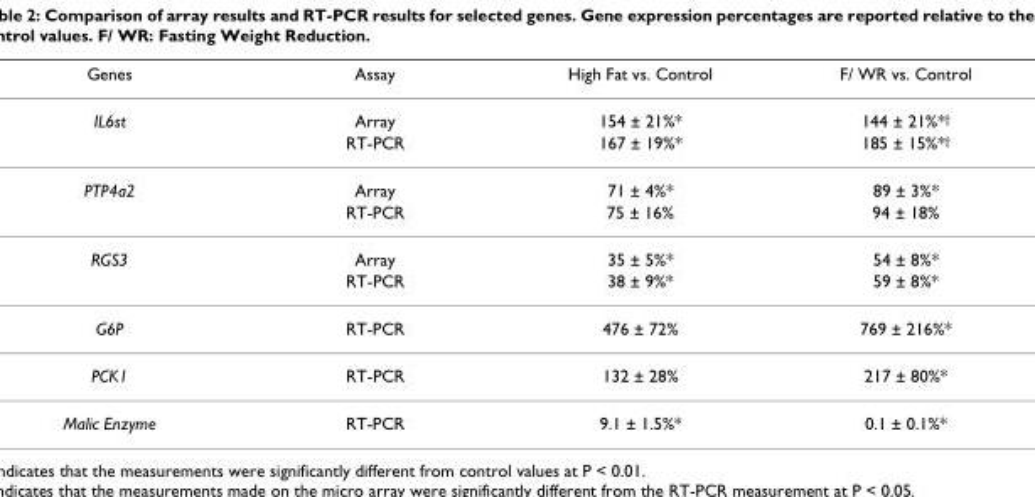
<table><thead><tr><td>Genes</td><td>Assay</td><td>High Fat vs. Control</td><td>F/ WR vs. Control</td></tr></thead><tbody><tr><td rowspan="2">IL6st</td><td>Array</td><td>154 ± 21%*</td><td>144 ± 21%*<sup>†</sup></td></tr><tr><td>RT-PCR</td><td>167 ± 19%*</td><td>185 ± 15%*<sup>†</sup></td></tr><tr><td rowspan="2">PTP4a2</td><td>Array</td><td>71 ± 4%*</td><td>89 ± 3%*</td></tr><tr><td>RT-PCR</td><td>75 ± 16%</td><td>94 ± 18%</td></tr><tr><td rowspan="2">RGS3</td><td>Array</td><td>35 ± 5%*</td><td>54 ± 8%*</td></tr><tr><td>RT-PCR</td><td>38 ± 9%*</td><td>59 ± 8%*</td></tr><tr><td>G6P</td><td>RT-PCR</td><td>476 ± 72%</td><td>769 ± 216%*</td></tr><tr><td>PCK1</td><td>RT-PCR</td><td>132 ± 28%</td><td>217 ± 80%*</td></tr><tr><td>Malic Enzyme</td><td>RT-PCR</td><td>9.1 ± 1.5%*</td><td>0.1 ± 0.1%*</td></tr></tbody></table>